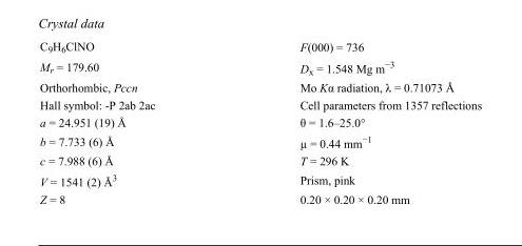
<table><tbody><tr><td>C<sub>9</sub>H<sub>6</sub>ClNO</td><td>F(000) = 736</td></tr><tr><td>M<sub>r</sub> = 179.60</td><td>D<sub>x</sub> = 1.548 Mg m<sup>−3</sup></td></tr><tr><td>Orthorhombic, Pccn</td><td>Mo Kα radiation, λ = 0.71073 Å</td></tr><tr><td>Hall symbol: -P 2ab 2ac</td><td>Cell parameters from 1357 reflections</td></tr><tr><td>a = 24.951 (19) Å</td><td>θ = 1.6–25.0°</td></tr><tr><td>b = 7.733 (6) Å</td><td>µ = 0.44 mm<sup>−1</sup></td></tr><tr><td>c = 7.988 (6) Å</td><td>T = 296 K</td></tr><tr><td>V = 1541 (2) Å<sup>3</sup></td><td>Prism, pink</td></tr><tr><td>Z = 8</td><td>0.20 × 0.20 × 0.20 mm</td></tr></tbody></table>